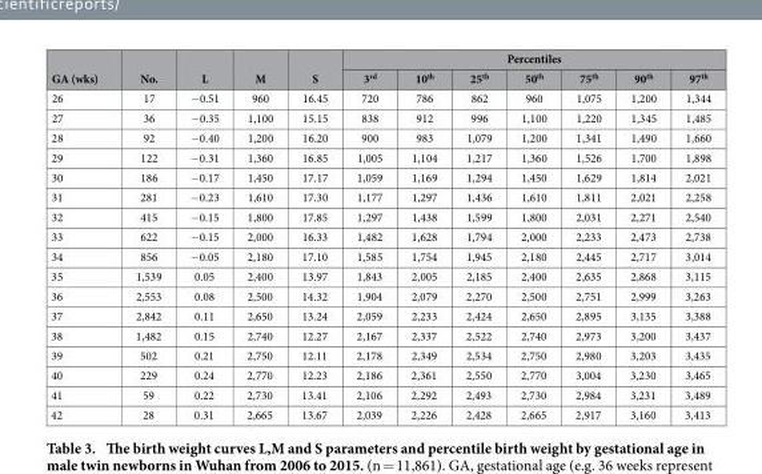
<table><thead><tr><td rowspan="2">GA (wks)</td><td rowspan="2">No.</td><td rowspan="2">L</td><td rowspan="2">M</td><td rowspan="2">S</td><td colspan="7">Percentiles</td></tr><tr><td>3<sup>rd</sup></td><td>10<sup>th</sup></td><td>25<sup>th</sup></td><td>50<sup>th</sup></td><td>75<sup>th</sup></td><td>90<sup>th</sup></td><td>97<sup>th</sup></td></tr></thead><tbody><tr><td>26</td><td>17</td><td>− 0.51</td><td>960</td><td>16.45</td><td>720</td><td>786</td><td>862</td><td>960</td><td>1,075</td><td>1,200</td><td>1,344</td></tr><tr><td>27</td><td>36</td><td>− 0.35</td><td>1,100</td><td>15.15</td><td>838</td><td>912</td><td>996</td><td>1,100</td><td>1,220</td><td>1,345</td><td>1,485</td></tr><tr><td>28</td><td>92</td><td>− 0.40</td><td>1,200</td><td>16.20</td><td>900</td><td>983</td><td>1,079</td><td>1,200</td><td>1,341</td><td>1,490</td><td>1,660</td></tr><tr><td>29</td><td>122</td><td>− 0.31</td><td>1,360</td><td>16.85</td><td>1,005</td><td>1,104</td><td>1,217</td><td>1,360</td><td>1,526</td><td>1,700</td><td>1,898</td></tr><tr><td>30</td><td>186</td><td>− 0.17</td><td>1,450</td><td>17.17</td><td>1,059</td><td>1,169</td><td>1,294</td><td>1,450</td><td>1,629</td><td>1,814</td><td>2,021</td></tr><tr><td>31</td><td>281</td><td>− 0.23</td><td>1,610</td><td>17.30</td><td>1,177</td><td>1,297</td><td>1,436</td><td>1,610</td><td>1,811</td><td>2,021</td><td>2,258</td></tr><tr><td>32</td><td>415</td><td>− 0.15</td><td>1,800</td><td>17.85</td><td>1,297</td><td>1,438</td><td>1,599</td><td>1,800</td><td>2,031</td><td>2,271</td><td>2,540</td></tr><tr><td>33</td><td>622</td><td>− 0.15</td><td>2,000</td><td>16.33</td><td>1,482</td><td>1,628</td><td>1,794</td><td>2,000</td><td>2,233</td><td>2,473</td><td>2,738</td></tr><tr><td>34</td><td>856</td><td>− 0.05</td><td>2,180</td><td>17.10</td><td>1,585</td><td>1,754</td><td>1,945</td><td>2,180</td><td>2,445</td><td>2,717</td><td>3,014</td></tr><tr><td>35</td><td>1,539</td><td>0.05</td><td>2,400</td><td>13.97</td><td>1,843</td><td>2,005</td><td>2,185</td><td>2,400</td><td>2,635</td><td>2,868</td><td>3,115</td></tr><tr><td>36</td><td>2,553</td><td>0.08</td><td>2,500</td><td>14.32</td><td>1,904</td><td>2,079</td><td>2,270</td><td>2,500</td><td>2,751</td><td>2,999</td><td>3,263</td></tr><tr><td>37</td><td>2,842</td><td>0.11</td><td>2,650</td><td>13.24</td><td>2,059</td><td>2,233</td><td>2,424</td><td>2,650</td><td>2,895</td><td>3,135</td><td>3,388</td></tr><tr><td>38</td><td>1,482</td><td>0.15</td><td>2,740</td><td>12.27</td><td>2,167</td><td>2,337</td><td>2,522</td><td>2,740</td><td>2,973</td><td>3,200</td><td>3,437</td></tr><tr><td>39</td><td>502</td><td>0.21</td><td>2,750</td><td>12.11</td><td>2,178</td><td>2,349</td><td>2,534</td><td>2,750</td><td>2,980</td><td>3,203</td><td>3,435</td></tr><tr><td>40</td><td>229</td><td>0.24</td><td>2,770</td><td>12.23</td><td>2,186</td><td>2,361</td><td>2,550</td><td>2,770</td><td>3,004</td><td>3,230</td><td>3,465</td></tr><tr><td>41</td><td>59</td><td>0.22</td><td>2,730</td><td>13.41</td><td>2,106</td><td>2,292</td><td>2,493</td><td>2,730</td><td>2,984</td><td>3,231</td><td>3,489</td></tr><tr><td>42</td><td>28</td><td>0.31</td><td>2,665</td><td>13.67</td><td>2,039</td><td>2,226</td><td>2,428</td><td>2,665</td><td>2,917</td><td>3,160</td><td>3,413</td></tr></tbody></table>